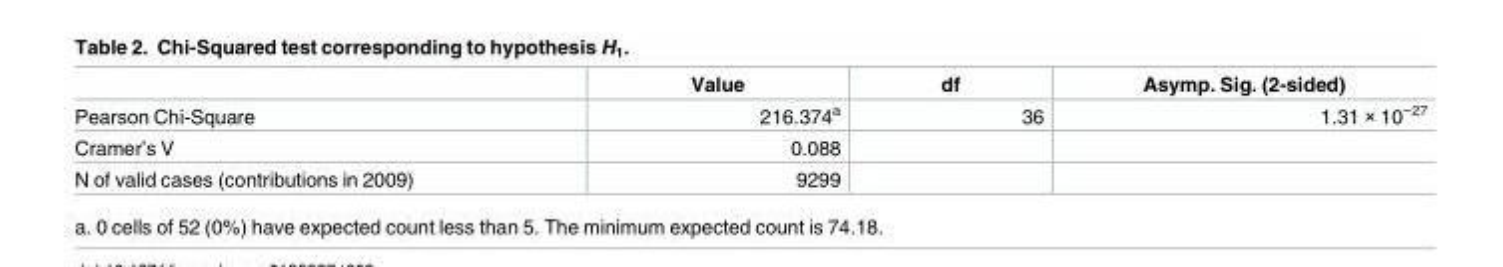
<table><thead><tr><td></td><td>Value</td><td>df</td><td>Asymp. Sig. (2-sided)</td></tr></thead><tbody><tr><td>Pearson Chi-Square</td><td>216.374<sup>a</sup></td><td>36</td><td>1.31 × 10<sup>−27</sup></td></tr><tr><td>Cramer’s V</td><td>0.088</td><td></td><td></td></tr><tr><td>N of valid cases (contributions in 2009)</td><td>9299</td><td></td><td></td></tr></tbody></table>